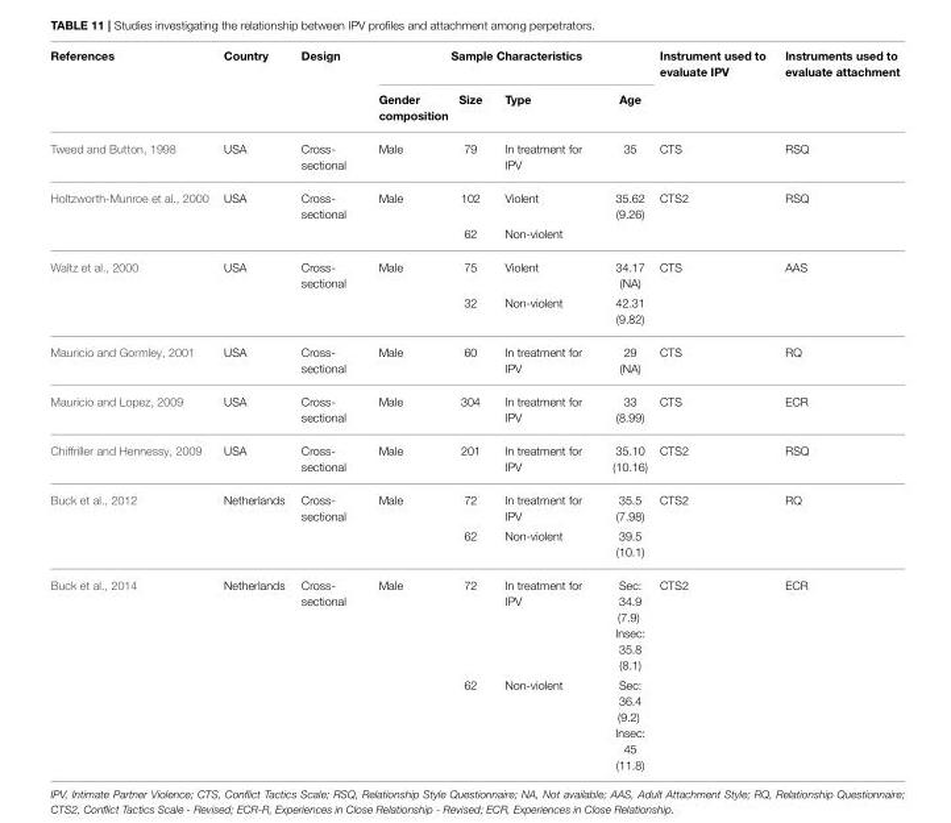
<table><thead><tr><td rowspan="2">References</td><td rowspan="2">Country</td><td rowspan="2">Design</td><td colspan="4">Sample Characteristics</td><td rowspan="2">Instrument used to evaluate IPV</td><td rowspan="2">Instruments used to evaluate attachment</td></tr><tr><td>Gender composition</td><td>Size</td><td>Type</td><td>Age</td></tr></thead><tbody><tr><td>Tweed and Button, 1998</td><td>USA</td><td>Cross- sectional</td><td>Male</td><td>79</td><td>In treatment for IPV</td><td>35</td><td>CTS</td><td>RSQ</td></tr><tr><td rowspan="2">Holtzworth-Munroe et al., 2000</td><td>USA</td><td>Cross- sectional</td><td>Male</td><td>102</td><td>Violent</td><td>35.62 (9.26)</td><td>CTS2</td><td>RSQ</td></tr><tr><td></td><td></td><td></td><td>62</td><td>Non-violent</td><td></td><td></td><td></td></tr><tr><td rowspan="2">Waltz et al., 2000</td><td>USA</td><td>Cross- sectional</td><td>Male</td><td>75</td><td>Violent</td><td>34.17 (NA)</td><td>CTS</td><td>AAS</td></tr><tr><td></td><td></td><td></td><td>32</td><td>Non-violent</td><td>42.31 (9.82)</td><td></td><td></td></tr><tr><td>Mauricio and Gormley, 2001</td><td>USA</td><td>Cross- sectional</td><td>Male</td><td>60</td><td>In treatment for IPV</td><td>29 (NA)</td><td>CTS</td><td>RQ</td></tr><tr><td>Mauricio and Lopez, 2009</td><td>USA</td><td>Cross- sectional</td><td>Male</td><td>304</td><td>In treatment for IPV</td><td>33 (8.99)</td><td>CTS</td><td>ECR</td></tr><tr><td>Chiffriller and Hennessy, 2009</td><td>USA</td><td>Cross- sectional</td><td>Male</td><td>201</td><td>In treatment for IPV</td><td>35.10 (10.16)</td><td>CTS2</td><td>RSQ</td></tr><tr><td rowspan="2">Buck et al., 2012</td><td>Netherlands</td><td>Cross- sectional</td><td>Male</td><td>72</td><td>In treatment for IPV</td><td>35.5 (7.98)</td><td>CTS2</td><td>RQ</td></tr><tr><td></td><td></td><td></td><td>62</td><td>Non-violent</td><td>39.5 (10.1)</td><td></td><td></td></tr><tr><td rowspan="2">Buck et al., 2014</td><td>Netherlands</td><td>Cross- sectional</td><td>Male</td><td>72</td><td>In treatment for IPV</td><td>Sec: 34.9 (7.9) Insec: 35.8 (8.1)</td><td>CTS2</td><td>ECR</td></tr><tr><td></td><td></td><td></td><td>62</td><td>Non-violent</td><td>Sec: 36.4 (9.2) Insec: 45 (11.8)</td><td></td><td></td></tr></tbody></table>